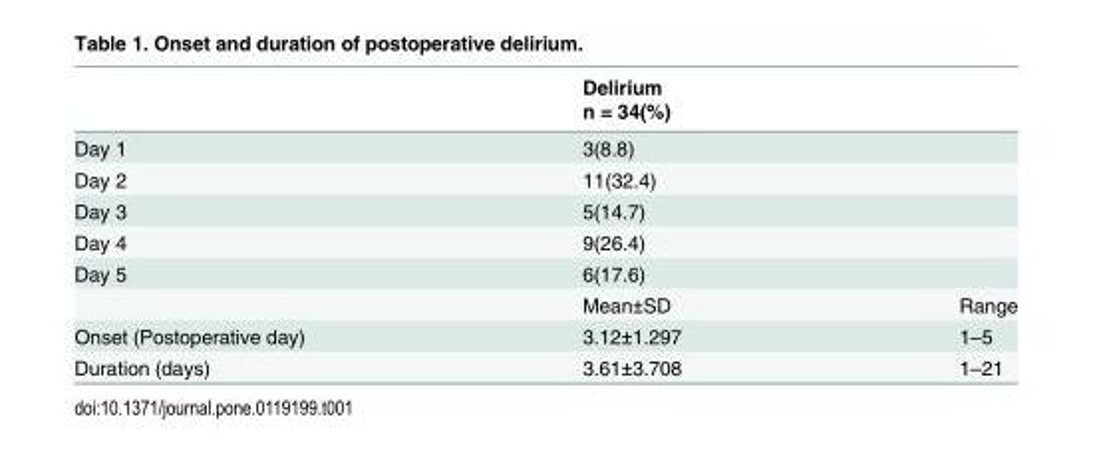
<table><thead><tr><td rowspan="2"></td><td rowspan="2">Delirium n = 34(%)</td><td rowspan="2"></td></tr><tr></tr></thead><tbody><tr><td>Day 1</td><td>3(8.8)</td><td></td></tr><tr><td>Day 2</td><td>11(32.4)</td><td></td></tr><tr><td>Day 3</td><td>5(14.7)</td><td></td></tr><tr><td>Day 4</td><td>9(26.4)</td><td></td></tr><tr><td rowspan="2">Day 5</td><td>6(17.6)</td><td></td></tr><tr><td>Mean±SD</td><td>Range</td></tr><tr><td>Onset (Postoperative day)</td><td>3.12±1.297</td><td>1–5</td></tr><tr><td>Duration (days)</td><td>3.61±3.708</td><td>1–21</td></tr></tbody></table>